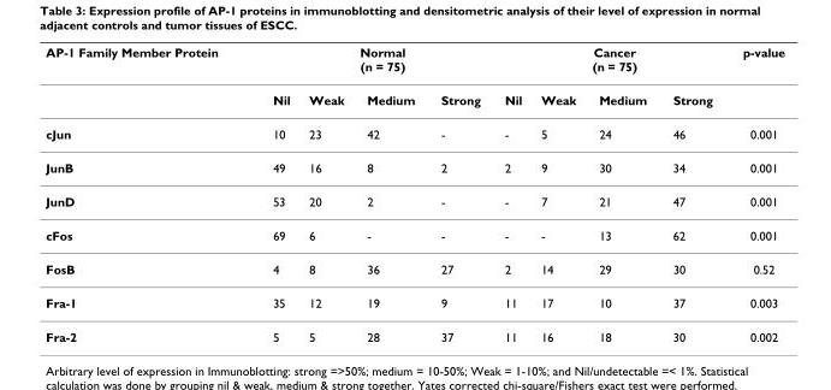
<table><thead><tr><td rowspan="2">AP-1 Family Member Protein</td><td colspan="4">Normal (n = 75)</td><td colspan="4">Cancer (n = 75)</td><td rowspan="2">p-value</td></tr><tr><td>Nil</td><td>Weak</td><td>Medium</td><td>Strong</td><td>Nil</td><td>Weak</td><td>Medium</td><td>Strong</td></tr></thead><tbody><tr><td>cJun</td><td>10</td><td>23</td><td>42</td><td>-</td><td>-</td><td>5</td><td>24</td><td>46</td><td>0.001</td></tr><tr><td>JunB</td><td>49</td><td>16</td><td>8</td><td>2</td><td>2</td><td>9</td><td>30</td><td>34</td><td>0.001</td></tr><tr><td>JunD</td><td>53</td><td>20</td><td>2</td><td>-</td><td>-</td><td>7</td><td>21</td><td>47</td><td>0.001</td></tr><tr><td>cFos</td><td>69</td><td>6</td><td>-</td><td>-</td><td>-</td><td>-</td><td>13</td><td>62</td><td>0.001</td></tr><tr><td>FosB</td><td>4</td><td>8</td><td>36</td><td>27</td><td>2</td><td>14</td><td>29</td><td>30</td><td>0.52</td></tr><tr><td>Fra-1</td><td>35</td><td>12</td><td>19</td><td>9</td><td>11</td><td>17</td><td>10</td><td>37</td><td>0.003</td></tr><tr><td>Fra-2</td><td>5</td><td>5</td><td>28</td><td>37</td><td>11</td><td>16</td><td>18</td><td>30</td><td>0.002</td></tr></tbody></table>